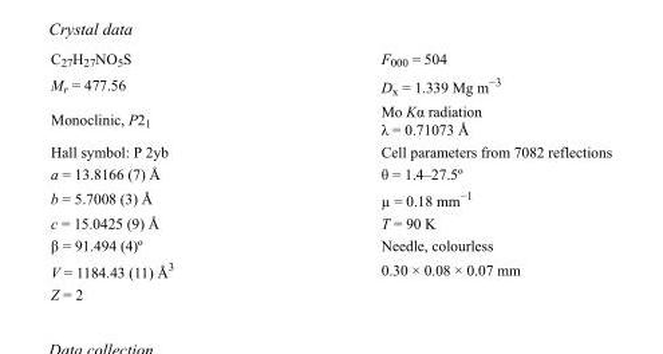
<table><tbody><tr><td>C<sub>27</sub>H<sub>27</sub>NO<sub>5</sub>S</td><td>F000 = 504</td></tr><tr><td>M<sub>r</sub> = 477.56</td><td>D<sub>x</sub> = 1.339 Mg m<sup>−3</sup></td></tr><tr><td>Monoclinic, P2<sub>1</sub></td><td>Mo Kα radiation λ = 0.71073 Å</td></tr><tr><td>Hall symbol: P 2yb</td><td>Cell parameters from 7082 reflections</td></tr><tr><td>a = 13.8166 (7) Å</td><td>θ = 1.4–27.5º</td></tr><tr><td>b = 5.7008 (3) Å</td><td>µ = 0.18 mm<sup>−1</sup></td></tr><tr><td>c = 15.0425 (9) Å</td><td>T = 90 K</td></tr><tr><td>β = 91.494 (4)º</td><td>Needle, colourless</td></tr><tr><td>V = 1184.43 (11) Å<sup>3</sup></td><td>0.30 × 0.08 × 0.07 mm</td></tr><tr><td>Z = 2</td><td></td></tr></tbody></table>